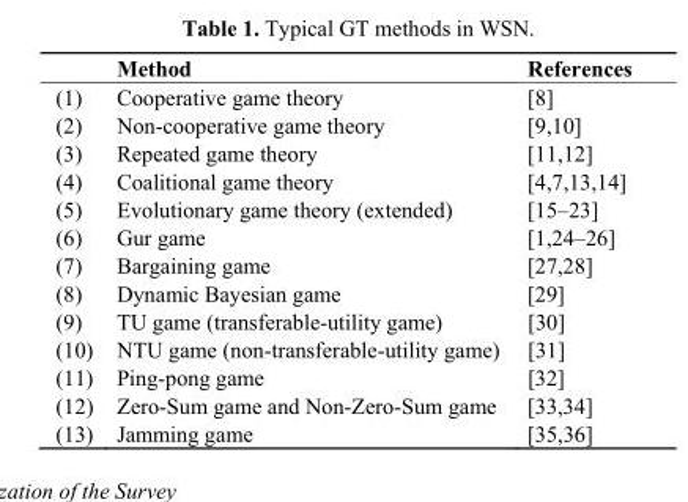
<table><thead><tr><td></td><td>Method</td><td>References</td></tr></thead><tbody><tr><td>(1)</td><td>Cooperative game theory</td><td>[8]</td></tr><tr><td>(2)</td><td>Non-cooperative game theory</td><td>[9,10]</td></tr><tr><td>(3)</td><td>Repeated game theory</td><td>[11,12]</td></tr><tr><td>(4)</td><td>Coalitional game theory</td><td>[4,7,13,14]</td></tr><tr><td>(5)</td><td>Evolutionary game theory (extended)</td><td>[15–23]</td></tr><tr><td>(6)</td><td>Gur game</td><td>[1,24–26]</td></tr><tr><td>(7)</td><td>Bargaining game</td><td>[27,28]</td></tr><tr><td>(8)</td><td>Dynamic Bayesian game</td><td>[29]</td></tr><tr><td>(9)</td><td>TU game (transferable-utility game)</td><td>[30]</td></tr><tr><td>(10)</td><td>NTU game (non-transferable-utility game)</td><td>[31]</td></tr><tr><td>(11)</td><td>Ping-pong game</td><td>[32]</td></tr><tr><td>(12)</td><td>Zero-Sum game and Non-Zero-Sum game</td><td>[33,34]</td></tr><tr><td>(13)</td><td>Jamming game</td><td>[35,36]</td></tr></tbody></table>